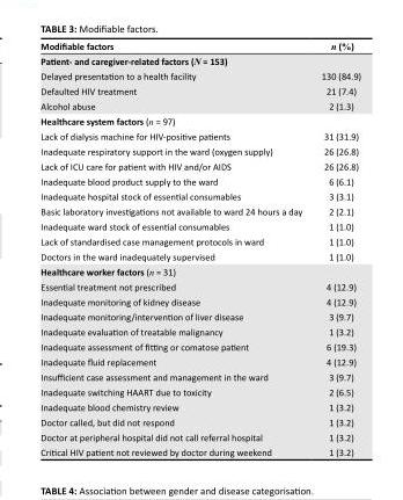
<table><thead><tr><td>Modifiable factors</td><td>n (%)</td></tr></thead><tbody><tr><td colspan="2">Patient- and caregiver-related factors (N = 153)</td></tr><tr><td>Delayed presentation to a health facility</td><td>130 (84.9)</td></tr><tr><td>Defaulted HIV treatment</td><td>21 (7.4)</td></tr><tr><td>Alcohol abuse</td><td>2 (1.3)</td></tr><tr><td colspan="2">Healthcare system factors (n = 97)</td></tr><tr><td>Lack of dialysis machine for HIV-positive patients</td><td>31 (31.9)</td></tr><tr><td>Inadequate respiratory support in the ward (oxygen supply)</td><td>26 (26.8)</td></tr><tr><td>Lack of ICU care for patient with HIV and/or AIDS</td><td>26 (26.8)</td></tr><tr><td>Inadequate blood product supply to the ward</td><td>6 (6.1)</td></tr><tr><td>Inadequate hospital stock of essential consumables</td><td>3 (3.1)</td></tr><tr><td>Basic laboratory investigations not available to ward 24 hours a day</td><td>2 (2.1)</td></tr><tr><td>Inadequate ward stock of essential consumables</td><td>1 (1.0)</td></tr><tr><td>Lack of standardised case management protocols in ward</td><td>1 (1.0)</td></tr><tr><td>Doctors in the ward inadequately supervised</td><td>1 (1.0)</td></tr><tr><td colspan="2">Healthcare worker factors (n = 31)</td></tr><tr><td>Essential treatment not prescribed</td><td>4 (12.9)</td></tr><tr><td>Inadequate monitoring of kidney disease</td><td>4 (12.9)</td></tr><tr><td>Inadequate monitoring/intervention of liver disease</td><td>3 (9.7)</td></tr><tr><td>Inadequate evaluation of treatable malignancy</td><td>1 (3.2)</td></tr><tr><td>Inadequate assessment of fitting or comatose patient</td><td>6 (19.3)</td></tr><tr><td>Inadequate fluid replacement</td><td>4 (12.9)</td></tr><tr><td>Insufficient case assessment and management in the ward</td><td>3 (9.7)</td></tr><tr><td>Inadequate switching HAART due to toxicity</td><td>2 (6.5)</td></tr><tr><td>Inadequate blood chemistry review</td><td>1 (3.2)</td></tr><tr><td>Doctor called, but did not respond</td><td>1 (3.2)</td></tr><tr><td>Doctor at peripheral hospital did not call referral hospital</td><td>1 (3.2)</td></tr><tr><td>Critical HIV patient not reviewed by doctor during weekend</td><td>1 (3.2)</td></tr></tbody></table>